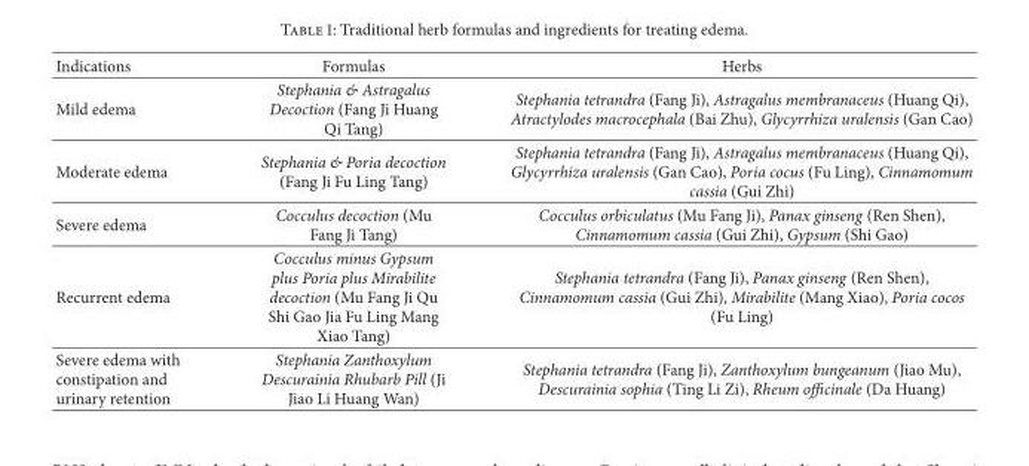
<table><thead><tr><td>Indications</td><td>Formulas</td><td>Herbs</td></tr></thead><tbody><tr><td>Mild edema</td><td>Stephania &amp; Astragalus Decoction (Fang Ji Huang Qi Tang)</td><td>Stephania tetrandra (Fang Ji), Astragalus membranaceus (Huang Qi), Atractylodes macrocephala (Bai Zhu), Glycyrrhiza uralensis (Gan Cao)</td></tr><tr><td>Moderate edema</td><td>Stephania &amp; Poria decoction (Fang Ji Fu Ling Tang)</td><td>Stephania tetrandra (Fang Ji), Astragalus membranaceus (Huang Qi), Glycyrrhiza uralensis (Gan Cao), Poria cocus (Fu Ling), Cinnamomum cassia (Gui Zhi)</td></tr><tr><td>Severe edema</td><td>Cocculus decoction (Mu Fang Ji Tang)</td><td>Cocculus orbiculatus (Mu Fang Ji), Panax ginseng (Ren Shen), Cinnamomum cassia (Gui Zhi), Gypsum (Shi Gao)</td></tr><tr><td>Recurrent edema</td><td>Cocculus minus Gypsum plus Poria plus Mirabilite decoction (Mu Fang Ji Qu Shi Gao Jia Fu Ling Mang Xiao Tang)</td><td>Stephania tetrandra (Fang Ji), Panax ginseng (Ren Shen), Cinnamomum cassia (Gui Zhi), Mirabilite (Mang Xiao), Poria cocos (Fu Ling)</td></tr><tr><td>Severe edema with constipation and urinary retention</td><td>Stephania Zanthoxylum Descurainia Rhubarb Pill (Ji Jiao Li Huang Wan)</td><td>Stephania tetrandra (Fang Ji), Zanthoxylum bungeanum (Jiao Mu), Descurainia sophia (Ting Li Zi), Rheum officinale (Da Huang)</td></tr></tbody></table>